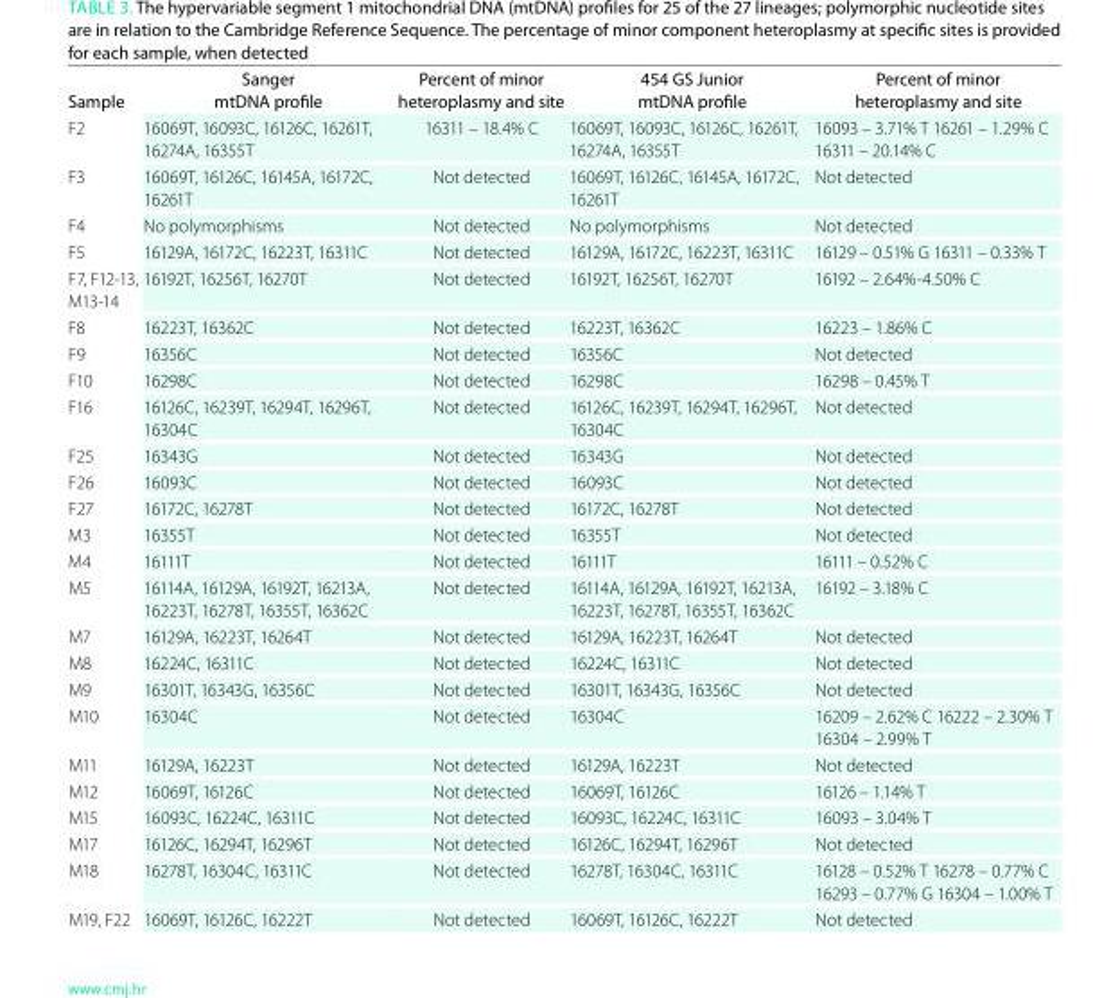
<table><thead><tr><td>sample</td><td>sanger mtdNA profile</td><td>Percent of minor heteroplasmy and site</td><td>454 Gs Junior mtdNA profile</td><td>Percent of minor heteroplasmy and site</td></tr></thead><tbody><tr><td>F2</td><td>16069T, 16093C, 16126C, 16261T, 16274A, 16355T</td><td>16311 – 18.4% C</td><td>16069T, 16093C, 16126C, 16261T, 16274A, 16355T</td><td>16093 – 3.71% T 16261 – 1.29% C 16311 – 20.14% C</td></tr><tr><td>F3</td><td>16069T, 16126C, 16145A, 16172C, 16261T</td><td>Not detected</td><td>16069T, 16126C, 16145A, 16172C, 16261T</td><td>Not detected</td></tr><tr><td>F4</td><td>No polymorphisms</td><td>Not detected</td><td>No polymorphisms</td><td>Not detected</td></tr><tr><td>F5</td><td>16129A, 16172C, 16223T, 16311C</td><td>Not detected</td><td>16129A, 16172C, 16223T, 16311C</td><td>16129 – 0.51% G 16311 – 0.33% T</td></tr><tr><td>F7, F12-13, M13-14</td><td>16192T, 16256T, 16270T</td><td>Not detected</td><td>16192T, 16256T, 16270T</td><td>16192 – 2.64%-4.50% C</td></tr><tr><td>F8</td><td>16223T, 16362C</td><td>Not detected</td><td>16223T, 16362C</td><td>16223 – 1.86% C</td></tr><tr><td>F9</td><td>16356C</td><td>Not detected</td><td>16356C</td><td>Not detected</td></tr><tr><td>F10</td><td>16298C</td><td>Not detected</td><td>16298C</td><td>16298 – 0.45% T</td></tr><tr><td>F16</td><td>16126C, 16239T, 16294T, 16296T, 16304C</td><td>Not detected</td><td>16126C, 16239T, 16294T, 16296T, 16304C</td><td>Not detected</td></tr><tr><td>F25</td><td>16343G</td><td>Not detected</td><td>16343G</td><td>Not detected</td></tr><tr><td>F26</td><td>16093C</td><td>Not detected</td><td>16093C</td><td>Not detected</td></tr><tr><td>F27</td><td>16172C, 16278T</td><td>Not detected</td><td>16172C, 16278T</td><td>Not detected</td></tr><tr><td>M3</td><td>16355T</td><td>Not detected</td><td>16355T</td><td>Not detected</td></tr><tr><td>M4</td><td>16111T</td><td>Not detected</td><td>16111T</td><td>16111 – 0.52% C</td></tr><tr><td>M5</td><td>16114A, 16129A, 16192T, 16213A, 16223T, 16278T, 16355T, 16362C</td><td>Not detected</td><td>16114A, 16129A, 16192T, 16213A, 16223T, 16278T, 16355T, 16362C</td><td>16192 – 3.18% C</td></tr><tr><td>M7</td><td>16129A, 16223T, 16264T</td><td>Not detected</td><td>16129A, 16223T, 16264T</td><td>Not detected</td></tr><tr><td>M8</td><td>16224C, 16311C</td><td>Not detected</td><td>16224C, 16311C</td><td>Not detected</td></tr><tr><td>M9</td><td>16301T, 16343G, 16356C</td><td>Not detected</td><td>16301T, 16343G, 16356C</td><td>Not detected</td></tr><tr><td>M10</td><td>16304C</td><td>Not detected</td><td>16304C</td><td>16209 – 2.62% C 16222 – 2.30% T 16304 – 2.99% T</td></tr><tr><td>M11</td><td>16129A, 16223T</td><td>Not detected</td><td>16129A, 16223T</td><td>Not detected</td></tr><tr><td>M12</td><td>16069T, 16126C</td><td>Not detected</td><td>16069T, 16126C</td><td>16126 – 1.14% T</td></tr><tr><td>M15</td><td>16093C, 16224C, 16311C</td><td>Not detected</td><td>16093C, 16224C, 16311C</td><td>16093 – 3.04% T</td></tr><tr><td>M17</td><td>16126C, 16294T, 16296T</td><td>Not detected</td><td>16126C, 16294T, 16296T</td><td>Not detected</td></tr><tr><td>M18</td><td>16278T, 16304C, 16311C</td><td>Not detected</td><td>16278T, 16304C, 16311C</td><td>16128 – 0.52% T 16278 – 0.77% C 16293 – 0.77% G 16304 – 1.00% T</td></tr><tr><td>M19, F22</td><td>16069T, 16126C, 16222T</td><td>Not detected</td><td>16069T, 16126C, 16222T</td><td>Not detected</td></tr></tbody></table>